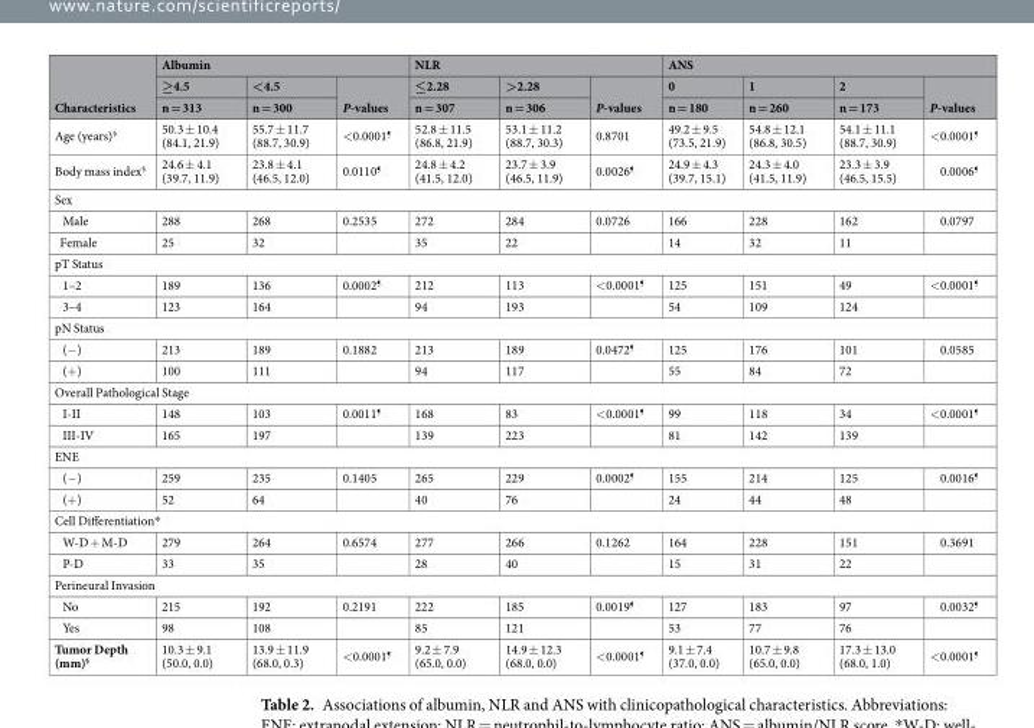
<table><thead><tr><td rowspan="3">Characteristics</td><td colspan="3">Albumin</td><td colspan="3">NLR</td><td colspan="4">ANS</td></tr><tr><td rowspan="2">≥4.5 n = 313</td><td rowspan="2">&lt;4.5 n = 300</td><td rowspan="2">P-values</td><td rowspan="2">≤2.28 n = 307</td><td rowspan="2">&gt;2.28 n = 306</td><td rowspan="2">P-values</td><td rowspan="2">0 n = 180</td><td rowspan="2">1 n = 260</td><td rowspan="2">2 n = 173</td><td rowspan="2">P-values</td></tr><tr></tr></thead><tbody><tr><td>Age (years)<sup>§</sup></td><td>50.3 ± 10.4 (84.1, 21.9)</td><td>55.7 ± 11.7 (88.7, 30.9)</td><td>&lt;0.0001<sup>¶</sup></td><td>52.8 ± 11.5 (86.8, 21.9)</td><td>53.1 ± 11.2 (88.7, 30.3)</td><td>0.8701</td><td>49.2 ± 9.5 (73.5, 21.9)</td><td>54.8 ± 12.1 (86.8, 30.5)</td><td>54.1 ± 11.1 (88.7, 30.9)</td><td>&lt;0.0001<sup>¶</sup></td></tr><tr><td>Body mass index<sup>§</sup></td><td>24.6 ± 4.1 (39.7, 11.9)</td><td>23.8 ± 4.1 (46.5, 12.0)</td><td>0.0110<sup>¶</sup></td><td>24.8 ± 4.2 (41.5, 12.0)</td><td>23.7 ± 3.9 (46.5, 11.9)</td><td>0.0026<sup>¶</sup></td><td>24.9 ± 4.3 (39.7, 15.1)</td><td>24.3 ± 4.0 (41.5, 11.9)</td><td>23.3 ± 3.9 (46.5, 15.5)</td><td>0.0006<sup>¶</sup></td></tr><tr><td colspan="11">Sex</td></tr><tr><td>Male</td><td>288</td><td>268</td><td>0.2535</td><td>272</td><td>284</td><td>0.0726</td><td>166</td><td>228</td><td>162</td><td>0.0797</td></tr><tr><td>Female</td><td>25</td><td>32</td><td></td><td>35</td><td>22</td><td></td><td>14</td><td>32</td><td>11</td><td></td></tr><tr><td colspan="11">pT Status</td></tr><tr><td>1–2</td><td>189</td><td>136</td><td>0.0002<sup>¶</sup></td><td>212</td><td>113</td><td>&lt;0.0001<sup>¶</sup></td><td>125</td><td>151</td><td>49</td><td>&lt;0.0001<sup>¶</sup></td></tr><tr><td>3–4</td><td>123</td><td>164</td><td></td><td>94</td><td>193</td><td></td><td>54</td><td>109</td><td>124</td><td></td></tr><tr><td colspan="11">pN Status</td></tr><tr><td>(−)</td><td>213</td><td>189</td><td>0.1882</td><td>213</td><td>189</td><td>0.0472<sup>¶</sup></td><td>125</td><td>176</td><td>101</td><td>0.0585</td></tr><tr><td>(+)</td><td>100</td><td>111</td><td></td><td>94</td><td>117</td><td></td><td>55</td><td>84</td><td>72</td><td></td></tr><tr><td colspan="11">Overall Pathological Stage</td></tr><tr><td>I-II</td><td>148</td><td>103</td><td>0.0011<sup>¶</sup></td><td>168</td><td>83</td><td>&lt;0.0001<sup>¶</sup></td><td>99</td><td>118</td><td>34</td><td>&lt;0.0001<sup>¶</sup></td></tr><tr><td>III-IV</td><td>165</td><td>197</td><td></td><td>139</td><td>223</td><td></td><td>81</td><td>142</td><td>139</td><td></td></tr><tr><td colspan="11">ENE</td></tr><tr><td>(−)</td><td>259</td><td>235</td><td>0.1405</td><td>265</td><td>229</td><td>0.0002<sup>¶</sup></td><td>155</td><td>214</td><td>125</td><td>0.0016<sup>¶</sup></td></tr><tr><td>(+)</td><td>52</td><td>64</td><td></td><td>40</td><td>76</td><td></td><td>24</td><td>44</td><td>48</td><td></td></tr><tr><td colspan="11">Cell Differentiation*</td></tr><tr><td>W-D + M-D</td><td>279</td><td>264</td><td>0.6574</td><td>277</td><td>266</td><td>0.1262</td><td>164</td><td>228</td><td>151</td><td>0.3691</td></tr><tr><td>P-D</td><td>33</td><td>35</td><td></td><td>28</td><td>40</td><td></td><td>15</td><td>31</td><td>22</td><td></td></tr><tr><td colspan="11">Perineural Invasion</td></tr><tr><td>No</td><td>215</td><td>192</td><td>0.2191</td><td>222</td><td>185</td><td>0.0019<sup>¶</sup></td><td>127</td><td>183</td><td>97</td><td>0.0032<sup>¶</sup></td></tr><tr><td>Yes</td><td>98</td><td>108</td><td></td><td>85</td><td>121</td><td></td><td>53</td><td>77</td><td>76</td><td></td></tr><tr><td>Tumor Depth (mm)<sup>§</sup></td><td>10.3 ± 9.1 (50.0, 0.0)</td><td>13.9 ± 11.9 (68.0, 0.3)</td><td>&lt;0.0001<sup>¶</sup></td><td>9.2 ± 7.9 (65.0, 0.0)</td><td>14.9 ± 12.3 (68.0, 0.0)</td><td>&lt;0.0001<sup>¶</sup></td><td>9.1 ± 7.4 (37.0, 0.0)</td><td>10.7 ± 9.8 (65.0, 0.0)</td><td>17.3 ± 13.0 (68.0, 1.0)</td><td>&lt;0.0001<sup>¶</sup></td></tr></tbody></table>